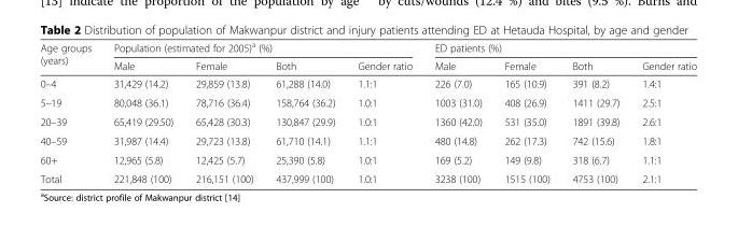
<table><thead><tr><td rowspan="2">Age groups (years)</td><td colspan="4">Population (estimated for 2005)<sup>a</sup> (%)</td><td colspan="4">ED patients (%)</td></tr><tr><td>Male</td><td>Female</td><td>Both</td><td>Gender ratio</td><td>Male</td><td>Female</td><td>Both</td><td>Gender ratio</td></tr></thead><tbody><tr><td>0–4</td><td>31,429 (14.2)</td><td>29,859 (13.8)</td><td>61,288 (14.0)</td><td>1.1:1</td><td>226 (7.0)</td><td>165 (10.9)</td><td>391 (8.2)</td><td>1.4:1</td></tr><tr><td>5–19</td><td>80,048 (36.1)</td><td>78,716 (36.4)</td><td>158,764 (36.2)</td><td>1.0:1</td><td>1003 (31.0)</td><td>408 (26.9)</td><td>1411 (29.7)</td><td>2.5:1</td></tr><tr><td>20–39</td><td>65,419 (29.50)</td><td>65,428 (30.3)</td><td>130,847 (29.9)</td><td>1.0:1</td><td>1360 (42.0)</td><td>531 (35.0)</td><td>1891 (39.8)</td><td>2.6:1</td></tr><tr><td>40–59</td><td>31,987 (14.4)</td><td>29,723 (13.8)</td><td>61,710 (14.1)</td><td>1.1:1</td><td>480 (14.8)</td><td>262 (17.3)</td><td>742 (15.6)</td><td>1.8:1</td></tr><tr><td>60+</td><td>12,965 (5.8)</td><td>12,425 (5.7)</td><td>25,390 (5.8)</td><td>1.0:1</td><td>169 (5.2)</td><td>149 (9.8)</td><td>318 (6.7)</td><td>1.1:1</td></tr><tr><td>Total</td><td>221,848 (100)</td><td>216,151 (100)</td><td>437,999 (100)</td><td>1.0:1</td><td>3238 (100)</td><td>1515 (100)</td><td>4753 (100)</td><td>2.1:1</td></tr></tbody></table>